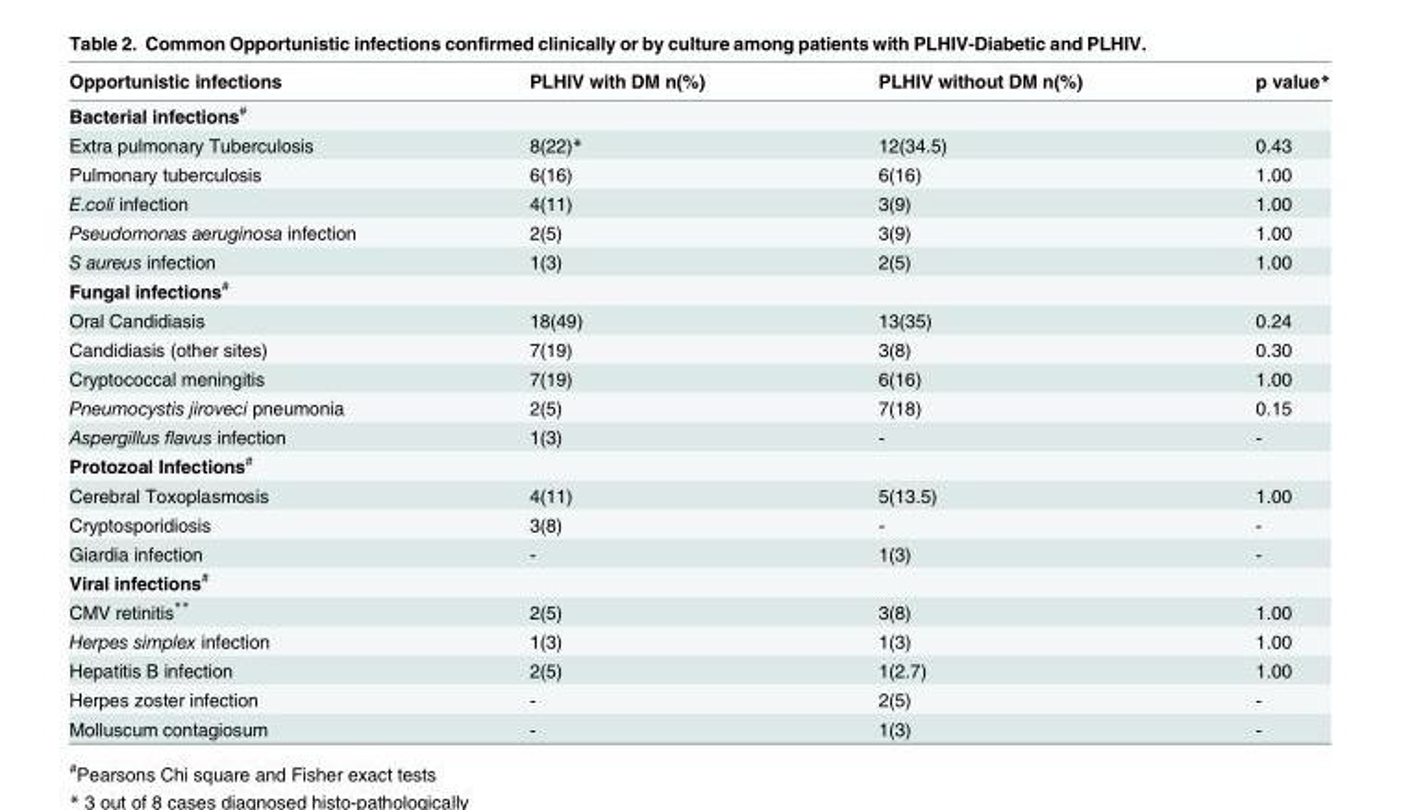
<table><thead><tr><td>Opportunistic infections</td><td>PLHIV with DM n(%)</td><td>PLHIV without DM n(%)</td><td>p value*</td></tr></thead><tbody><tr><td colspan="4">Bacterial infections<sup>#</sup></td></tr><tr><td>Extra pulmonary Tuberculosis</td><td>8(22)*</td><td>12(34.5)</td><td>0.43</td></tr><tr><td>Pulmonary tuberculosis</td><td>6(16)</td><td>6(16)</td><td>1.00</td></tr><tr><td>E.coli infection</td><td>4(11)</td><td>3(9)</td><td>1.00</td></tr><tr><td>Pseudomonas aeruginosa infection</td><td>2(5)</td><td>3(9)</td><td>1.00</td></tr><tr><td>S aureus infection</td><td>1(3)</td><td>2(5)</td><td>1.00</td></tr><tr><td colspan="4">Fungal infections<sup>#</sup></td></tr><tr><td>Oral Candidiasis</td><td>18(49)</td><td>13(35)</td><td>0.24</td></tr><tr><td>Candidiasis (other sites)</td><td>7(19)</td><td>3(8)</td><td>0.30</td></tr><tr><td>Cryptococcal meningitis</td><td>7(19)</td><td>6(16)</td><td>1.00</td></tr><tr><td>Pneumocystis jiroveci pneumonia</td><td>2(5)</td><td>7(18)</td><td>0.15</td></tr><tr><td>Aspergillus flavus infection</td><td>1(3)</td><td>-</td><td>-</td></tr><tr><td colspan="4">Protozoal Infections<sup>#</sup></td></tr><tr><td>Cerebral Toxoplasmosis</td><td>4(11)</td><td>5(13.5)</td><td>1.00</td></tr><tr><td>Cryptosporidiosis</td><td>3(8)</td><td>-</td><td>-</td></tr><tr><td>Giardia infection</td><td>-</td><td>1(3)</td><td>-</td></tr><tr><td colspan="4">Viral infections<sup>#</sup></td></tr><tr><td>CMV retinitis**</td><td>2(5)</td><td>3(8)</td><td>1.00</td></tr><tr><td>Herpes simplex infection</td><td>1(3)</td><td>1(3)</td><td>1.00</td></tr><tr><td>Hepatitis B infection</td><td>2(5)</td><td>1(2.7)</td><td>1.00</td></tr><tr><td>Herpes zoster infection</td><td>-</td><td>2(5)</td><td>-</td></tr><tr><td>Molluscum contagiosum</td><td>-</td><td>1(3)</td><td>-</td></tr></tbody></table>